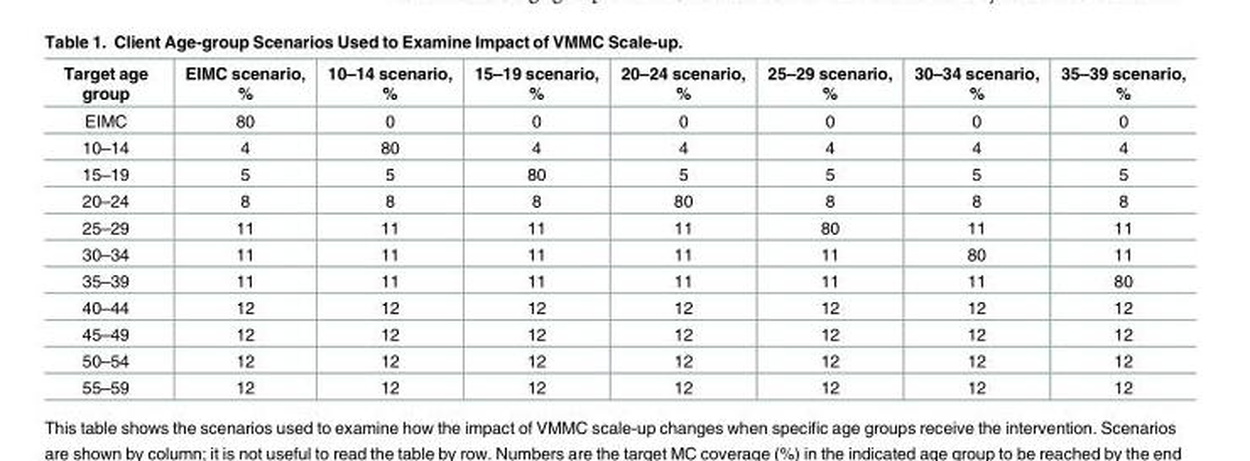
<table><thead><tr><td>Target age group</td><td>EIMC scenario, %</td><td>10–14 scenario, %</td><td>15–19 scenario, %</td><td>20–24 scenario, %</td><td>25–29 scenario, %</td><td>30–34 scenario, %</td><td>35–39 scenario, %</td></tr></thead><tbody><tr><td>EIMC</td><td>80</td><td>0</td><td>0</td><td>0</td><td>0</td><td>0</td><td>0</td></tr><tr><td>10–14</td><td>4</td><td>80</td><td>4</td><td>4</td><td>4</td><td>4</td><td>4</td></tr><tr><td>15–19</td><td>5</td><td>5</td><td>80</td><td>5</td><td>5</td><td>5</td><td>5</td></tr><tr><td>20–24</td><td>8</td><td>8</td><td>8</td><td>80</td><td>8</td><td>8</td><td>8</td></tr><tr><td>25–29</td><td>11</td><td>11</td><td>11</td><td>11</td><td>80</td><td>11</td><td>11</td></tr><tr><td>30–34</td><td>11</td><td>11</td><td>11</td><td>11</td><td>11</td><td>80</td><td>11</td></tr><tr><td>35–39</td><td>11</td><td>11</td><td>11</td><td>11</td><td>11</td><td>11</td><td>80</td></tr><tr><td>40–44</td><td>12</td><td>12</td><td>12</td><td>12</td><td>12</td><td>12</td><td>12</td></tr><tr><td>45–49</td><td>12</td><td>12</td><td>12</td><td>12</td><td>12</td><td>12</td><td>12</td></tr><tr><td>50–54</td><td>12</td><td>12</td><td>12</td><td>12</td><td>12</td><td>12</td><td>12</td></tr><tr><td>55–59</td><td>12</td><td>12</td><td>12</td><td>12</td><td>12</td><td>12</td><td>12</td></tr></tbody></table>